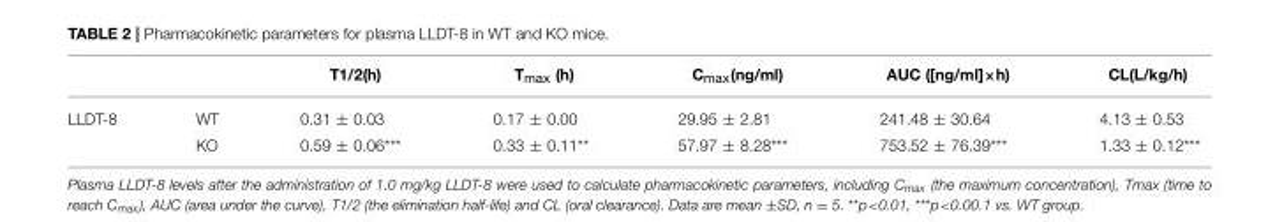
<table><thead><tr><td></td><td></td><td>T1/2(h)</td><td>T<sub>max</sub> (h)</td><td>C<sub>max</sub>(ng/ml)</td><td>AUC ([ng/ml]×h)</td><td>CL(L/kg/h)</td></tr></thead><tbody><tr><td rowspan="2">LLDT-8</td><td>WT</td><td>0.31 ± 0.03</td><td>0.17 ± 0.00</td><td>29.95 ± 2.81</td><td>241.48 ± 30.64</td><td>4.13 ± 0.53</td></tr><tr><td>KO</td><td>0.59 ± 0.06***</td><td>0.33 ± 0.11**</td><td>57.97 ± 8.28***</td><td>753.52 ± 76.39***</td><td>1.33 ± 0.12***</td></tr></tbody></table>